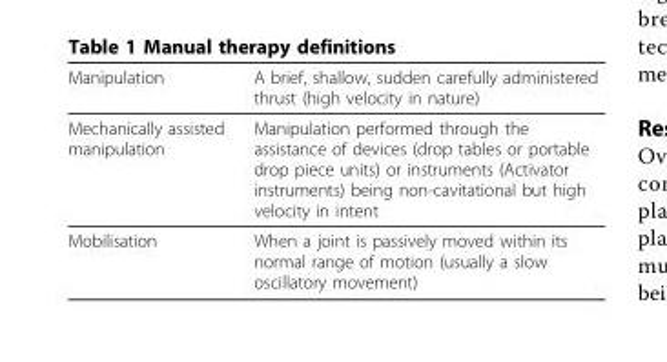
<table><thead><tr><td>Manipulation</td><td>A brief, shallow, sudden carefully administered thrust (high velocity in nature)</td></tr></thead><tbody><tr><td>Mechanically assisted manipulation</td><td>Manipulation performed through the assistance of devices (drop tables or portable drop piece units) or instruments (Activator instruments) being non-cavitational but high velocity in intent</td></tr><tr><td>Mobilisation</td><td>When a joint is passively moved within its normal range of motion (usually a slow oscillatory movement)</td></tr></tbody></table>